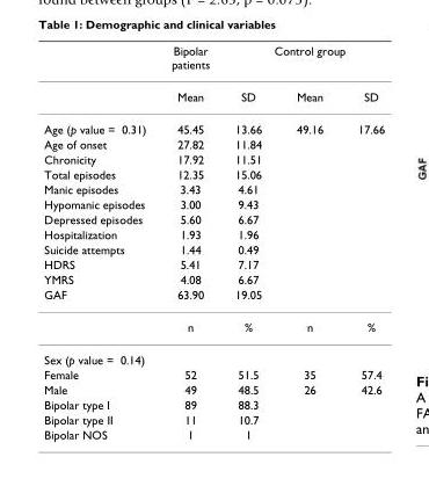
<table><thead><tr><td></td><td>Bipolar patients</td><td></td><td>Control group</td><td></td></tr></thead><tbody><tr><td></td><td>Mean</td><td>SD</td><td>Mean</td><td>SD</td></tr><tr><td>Age (p value = 0.31)</td><td>45.45</td><td>13.66</td><td>49.16</td><td>17.66</td></tr><tr><td>Age of onset</td><td>27.82</td><td>11.84</td><td></td><td></td></tr><tr><td>Chronicity</td><td>17.92</td><td>11.51</td><td></td><td></td></tr><tr><td>Total episodes</td><td>12.35</td><td>15.06</td><td></td><td></td></tr><tr><td>Manic episodes</td><td>3.43</td><td>4.61</td><td></td><td></td></tr><tr><td>Hypomanic episodes</td><td>3.00</td><td>9.43</td><td></td><td></td></tr><tr><td>Depressed episodes</td><td>5.60</td><td>6.67</td><td></td><td></td></tr><tr><td>Hospitalization</td><td>1.93</td><td>1.96</td><td></td><td></td></tr><tr><td>Suicide attempts</td><td>1.44</td><td>0.49</td><td></td><td></td></tr><tr><td>HDRS</td><td>5.41</td><td>7.17</td><td></td><td></td></tr><tr><td>YMRS</td><td>4.08</td><td>6.67</td><td></td><td></td></tr><tr><td rowspan="2">GAF</td><td>63.90</td><td>19.05</td><td></td><td></td></tr><tr><td>n</td><td>%</td><td>n</td><td>%</td></tr><tr><td colspan="5">Sex (p value = 0.14)</td></tr><tr><td>Female</td><td>52</td><td>51.5</td><td>35</td><td>57.4</td></tr><tr><td>Male</td><td>49</td><td>48.5</td><td>26</td><td>42.6</td></tr><tr><td>Bipolar type I</td><td>89</td><td>88.3</td><td></td><td></td></tr><tr><td>Bipolar type II</td><td>11</td><td>10.7</td><td></td><td></td></tr><tr><td>Bipolar NOS</td><td>1</td><td>1</td><td></td><td></td></tr></tbody></table>